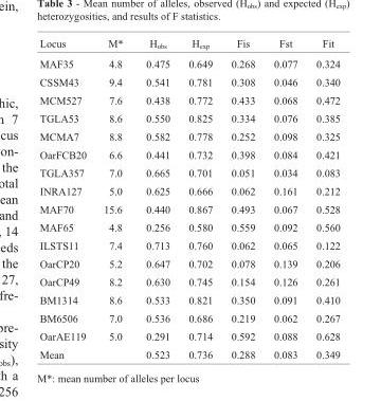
<table><thead><tr><td>Locus</td><td>M*</td><td>H<sub>obs</sub></td><td>H<sub>exp</sub></td><td>Fis</td><td>Fst</td><td>Fit</td></tr></thead><tbody><tr><td>MAF35</td><td>4.8</td><td>0.475</td><td>0.649</td><td>0.268</td><td>0.077</td><td>0.324</td></tr><tr><td>CSSM43</td><td>9.4</td><td>0.541</td><td>0.781</td><td>0.308</td><td>0.046</td><td>0.340</td></tr><tr><td>MCM527</td><td>7.6</td><td>0.438</td><td>0.772</td><td>0.433</td><td>0.068</td><td>0.472</td></tr><tr><td>TGLA53</td><td>8.6</td><td>0.550</td><td>0.825</td><td>0.334</td><td>0.076</td><td>0.385</td></tr><tr><td>MCMA7</td><td>8.8</td><td>0.582</td><td>0.778</td><td>0.252</td><td>0.098</td><td>0.325</td></tr><tr><td>OarFCB20</td><td>6.6</td><td>0.441</td><td>0.732</td><td>0.398</td><td>0.084</td><td>0.421</td></tr><tr><td>TGLA357</td><td>7.0</td><td>0.665</td><td>0.701</td><td>0.051</td><td>0.034</td><td>0.083</td></tr><tr><td>INRA127</td><td>5.0</td><td>0.625</td><td>0.666</td><td>0.062</td><td>0.161</td><td>0.212</td></tr><tr><td>MAF70</td><td>15.6</td><td>0.440</td><td>0.867</td><td>0.493</td><td>0.067</td><td>0.528</td></tr><tr><td>MAF65</td><td>4.8</td><td>0.256</td><td>0.580</td><td>0.559</td><td>0.092</td><td>0.560</td></tr><tr><td>ILSTS11</td><td>7.4</td><td>0.713</td><td>0.760</td><td>0.062</td><td>0.065</td><td>0.122</td></tr><tr><td>OarCP20</td><td>5.2</td><td>0.647</td><td>0.702</td><td>0.078</td><td>0.139</td><td>0.206</td></tr><tr><td>OarCP49</td><td>8.2</td><td>0.630</td><td>0.745</td><td>0.154</td><td>0.126</td><td>0.261</td></tr><tr><td>BM1314</td><td>8.6</td><td>0.533</td><td>0.821</td><td>0.350</td><td>0.091</td><td>0.410</td></tr><tr><td>BM6506</td><td>7.0</td><td>0.536</td><td>0.686</td><td>0.219</td><td>0.062</td><td>0.267</td></tr><tr><td>OarAE119</td><td>5.0</td><td>0.291</td><td>0.714</td><td>0.592</td><td>0.088</td><td>0.628</td></tr><tr><td>Mean</td><td></td><td>0.523</td><td>0.736</td><td>0.288</td><td>0.083</td><td>0.349</td></tr></tbody></table>